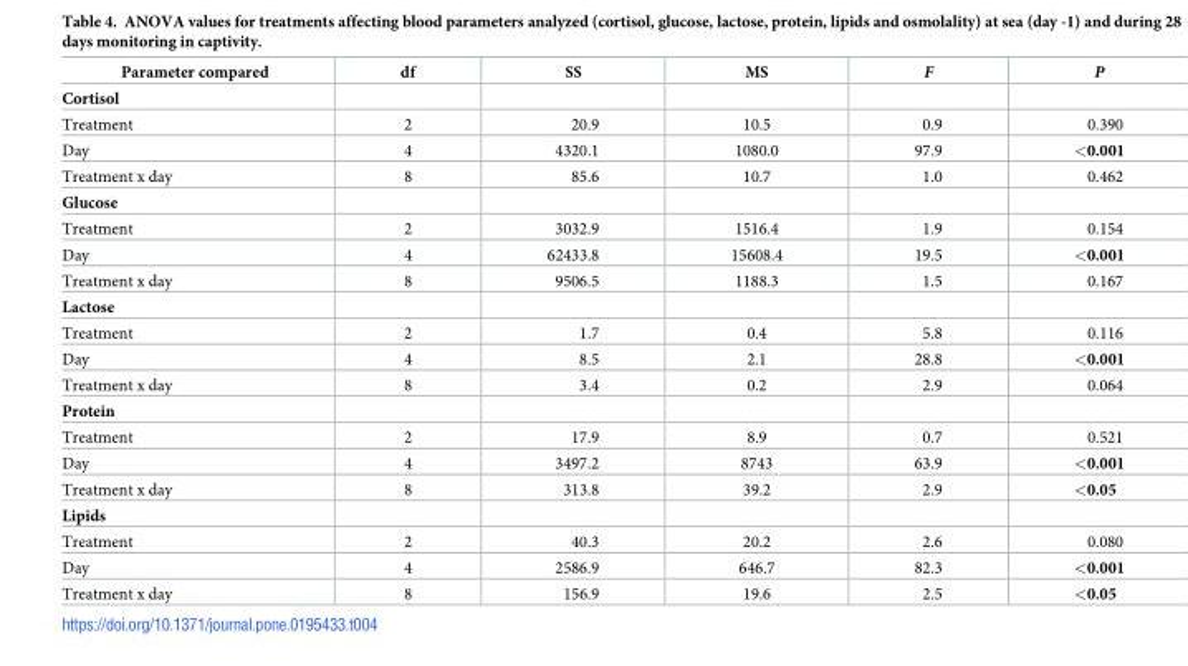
<table><thead><tr><td>Parameter compared</td><td>df</td><td>SS</td><td>MS</td><td>F</td><td>P</td></tr></thead><tbody><tr><td colspan="6">Cortisol</td></tr><tr><td>Treatment</td><td>2</td><td>20.9</td><td>10.5</td><td>0.9</td><td>0.390</td></tr><tr><td>Day</td><td>4</td><td>4320.1</td><td>1080.0</td><td>97.9</td><td>&lt;0.001</td></tr><tr><td>Treatment x day</td><td>8</td><td>85.6</td><td>10.7</td><td>1.0</td><td>0.462</td></tr><tr><td colspan="6">Glucose</td></tr><tr><td>Treatment</td><td>2</td><td>3032.9</td><td>1516.4</td><td>1.9</td><td>0.154</td></tr><tr><td>Day</td><td>4</td><td>62433.8</td><td>15608.4</td><td>19.5</td><td>&lt;0.001</td></tr><tr><td>Treatment x day</td><td>8</td><td>9506.5</td><td>1188.3</td><td>1.5</td><td>0.167</td></tr><tr><td colspan="6">Lactose</td></tr><tr><td>Treatment</td><td>2</td><td>1.7</td><td>0.4</td><td>5.8</td><td>0.116</td></tr><tr><td>Day</td><td>4</td><td>8.5</td><td>2.1</td><td>28.8</td><td>&lt;0.001</td></tr><tr><td>Treatment x day</td><td>8</td><td>3.4</td><td>0.2</td><td>2.9</td><td>0.064</td></tr><tr><td colspan="6">Protein</td></tr><tr><td>Treatment</td><td>2</td><td>17.9</td><td>8.9</td><td>0.7</td><td>0.521</td></tr><tr><td>Day</td><td>4</td><td>3497.2</td><td>8743</td><td>63.9</td><td>&lt;0.001</td></tr><tr><td>Treatment x day</td><td>8</td><td>313.8</td><td>39.2</td><td>2.9</td><td>&lt;0.05</td></tr><tr><td colspan="6">Lipids</td></tr><tr><td>Treatment</td><td>2</td><td>40.3</td><td>20.2</td><td>2.6</td><td>0.080</td></tr><tr><td>Day</td><td>4</td><td>2586.9</td><td>646.7</td><td>82.3</td><td>&lt;0.001</td></tr><tr><td>Treatment x day</td><td>8</td><td>156.9</td><td>19.6</td><td>2.5</td><td>&lt;0.05</td></tr></tbody></table>